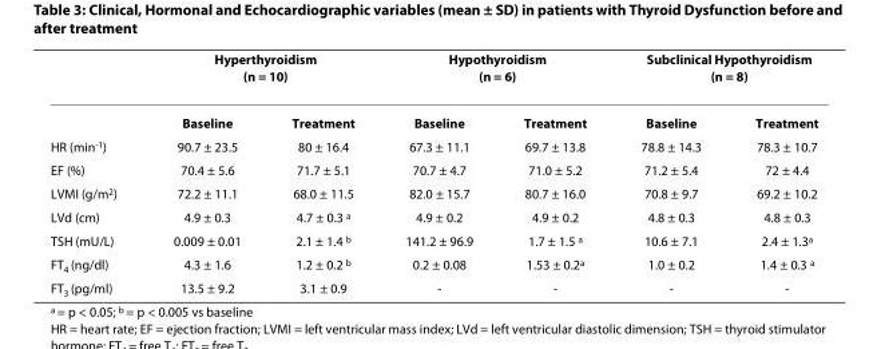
<table><thead><tr><td rowspan="2"></td><td colspan="2">Hyperthyroidism (n = 10)</td><td colspan="2">Hypothyroidism (n = 6)</td><td colspan="2">Subclinical Hypothyroidism (n = 8)</td></tr><tr><td>Baseline</td><td>Treatment</td><td>Baseline</td><td>Treatment</td><td>Baseline</td><td>Treatment</td></tr></thead><tbody><tr><td>HR (min<sup>-1</sup>)</td><td>90.7 ± 23.5</td><td>80 ± 16.4</td><td>67.3 ± 11.1</td><td>69.7 ± 13.8</td><td>78.8 ± 14.3</td><td>78.3 ± 10.7</td></tr><tr><td>EF (%)</td><td>70.4 ± 5.6</td><td>71.7 ± 5.1</td><td>70.7 ± 4.7</td><td>71.0 ± 5.2</td><td>71.2 ± 5.4</td><td>72 ± 4.4</td></tr><tr><td>LVMI (g/m<sup>2</sup>)</td><td>72.2 ± 11.1</td><td>68.0 ± 11.5</td><td>82.0 ± 15.7</td><td>80.7 ± 16.0</td><td>70.8 ± 9.7</td><td>69.2 ± 10.2</td></tr><tr><td>LVd (cm)</td><td>4.9 ± 0.3</td><td>4.7 ± 0.3 <sup>a</sup></td><td>4.9 ± 0.2</td><td>4.9 ± 0.2</td><td>4.8 ± 0.3</td><td>4.8 ± 0.3</td></tr><tr><td>TSH (mU/L)</td><td>0.009 ± 0.01</td><td>2.1 ± 1.4 <sup>b</sup></td><td>141.2 ± 96.9</td><td>1.7 ± 1.5 <sup>a</sup></td><td>10.6 ± 7.1</td><td>2.4 ± 1.3<sup>a</sup></td></tr><tr><td>FT<sub>4</sub> (ng/dl)</td><td>4.3 ± 1.6</td><td>1.2 ± 0.2 <sup>b</sup></td><td>0.2 ± 0.08</td><td>1.53 ± 0.2<sup>a</sup></td><td>1.0 ± 0.2</td><td>1.4 ± 0.3 <sup>a</sup></td></tr><tr><td>FT<sub>3</sub> (pg/ml)</td><td>13.5 ± 9.2</td><td>3.1 ± 0.9</td><td>-</td><td>-</td><td>-</td><td>-</td></tr></tbody></table>